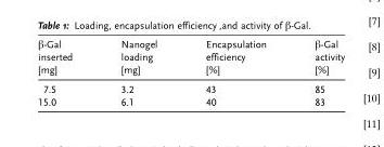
<table><thead><tr><td>β-Gal inserted [mg]</td><td>Nanogel loading [mg]</td><td>Encapsulation efficiency [%]</td><td>β-Gal activity [%]</td></tr></thead><tbody><tr><td>7.5</td><td>3.2</td><td>43</td><td>85</td></tr><tr><td>15.0</td><td>6.1</td><td>40</td><td>83</td></tr></tbody></table>